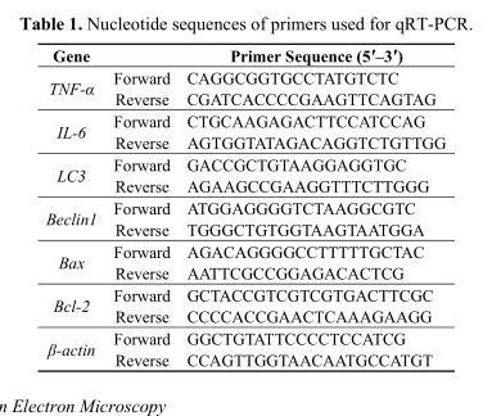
<table><thead><tr><td>Gene</td><td></td><td>Primer Sequence (5′–3′)</td></tr></thead><tbody><tr><td rowspan="2">TNF-α</td><td>Forward</td><td>CAGGCGGTGCCTATGTCTC</td></tr><tr><td>Reverse</td><td>CGATCACCCCGAAGTTCAGTAG</td></tr><tr><td rowspan="2">IL-6</td><td>Forward</td><td>CTGCAAGAGACTTCCATCCAG</td></tr><tr><td>Reverse</td><td>AGTGGTATAGACAGGTCTGTTGG</td></tr><tr><td rowspan="2">LC3</td><td>Forward</td><td>GACCGCTGTAAGGAGGTGC</td></tr><tr><td>Reverse</td><td>AGAAGCCGAAGGTTTCTTGGG</td></tr><tr><td rowspan="2">Beclin1</td><td>Forward</td><td>ATGGAGGGGTCTAAGGCGTC</td></tr><tr><td>Reverse</td><td>TGGGCTGTGGTAAGTAATGGA</td></tr><tr><td rowspan="2">Bax</td><td>Forward</td><td>AGACAGGGGCCTTTTTGCTAC</td></tr><tr><td>Reverse</td><td>AATTCGCCGGAGACACTCG</td></tr><tr><td rowspan="2">Bcl-2</td><td>Forward</td><td>GCTACCGTCGTCGTGACTTCGC</td></tr><tr><td>Reverse</td><td>CCCCACCGAACTCAAAGAAGG</td></tr><tr><td rowspan="2">β-actin</td><td>Forward</td><td>GGCTGTATTCCCCTCCATCG</td></tr><tr><td>Reverse</td><td>CCAGTTGGTAACAATGCCATGT</td></tr></tbody></table>